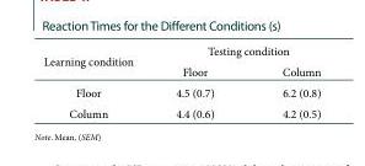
<table><thead><tr><td rowspan="2">Learning condition</td><td colspan="2">Testing condition</td></tr><tr><td>Floor</td><td>Column</td></tr></thead><tbody><tr><td>Floor</td><td>4.5 (0.7)</td><td>6.2 (0.8)</td></tr><tr><td>Column</td><td>4.4 (0.6)</td><td>4.2 (0.5)</td></tr></tbody></table>